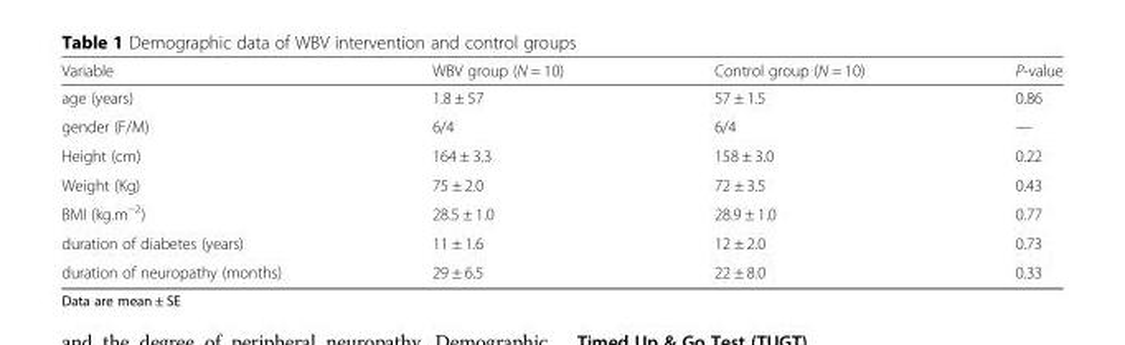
<table><thead><tr><td>Variable</td><td>WBV group (N = 10)</td><td>Control group (N = 10)</td><td>P-value</td></tr></thead><tbody><tr><td>age (years)</td><td>1.8 ± 57</td><td>57 ± 1.5</td><td>0.86</td></tr><tr><td>gender (F/M)</td><td>6/4</td><td>6/4</td><td>—</td></tr><tr><td>Height (cm)</td><td>164 ± 3.3</td><td>158 ± 3.0</td><td>0.22</td></tr><tr><td>Weight (Kg)</td><td>75 ± 2.0</td><td>72 ± 3.5</td><td>0.43</td></tr><tr><td>BMI (kg.m<sup>−2</sup>)</td><td>28.5 ± 1.0</td><td>28.9 ± 1.0</td><td>0.77</td></tr><tr><td>duration of diabetes (years)</td><td>11 ± 1.6</td><td>12 ± 2.0</td><td>0.73</td></tr><tr><td>duration of neuropathy (months)</td><td>29 ± 6.5</td><td>22 ± 8.0</td><td>0.33</td></tr></tbody></table>